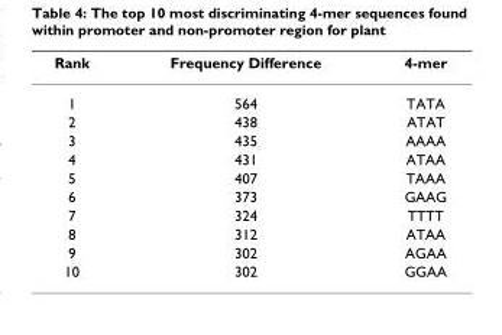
<table><thead><tr><td>Rank</td><td>Frequency Difference</td><td>4-mer</td></tr></thead><tbody><tr><td>1</td><td>564</td><td>TATA</td></tr><tr><td>2</td><td>438</td><td>ATAT</td></tr><tr><td>3</td><td>435</td><td>AAAA</td></tr><tr><td>4</td><td>431</td><td>ATAA</td></tr><tr><td>5</td><td>407</td><td>TAAA</td></tr><tr><td>6</td><td>373</td><td>GAAG</td></tr><tr><td>7</td><td>324</td><td>TTTT</td></tr><tr><td>8</td><td>312</td><td>ATAA</td></tr><tr><td>9</td><td>302</td><td>AGAA</td></tr><tr><td>10</td><td>302</td><td>GGAA</td></tr></tbody></table>